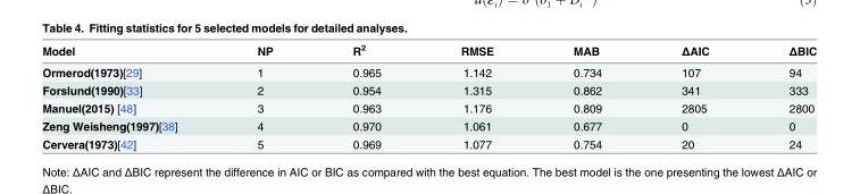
<table><thead><tr><td>Model</td><td>NP</td><td>R<sup>2</sup></td><td>RMSE</td><td>MAB</td><td>ΔAIC</td><td>ΔBIC</td></tr></thead><tbody><tr><td>Ormerod(1973)[29]</td><td>1</td><td>0.965</td><td>1.142</td><td>0.734</td><td>107</td><td>94</td></tr><tr><td>Forslund(1990)[33]</td><td>2</td><td>0.954</td><td>1.315</td><td>0.862</td><td>341</td><td>333</td></tr><tr><td>Manuel(2015) [48]</td><td>3</td><td>0.963</td><td>1.176</td><td>0.809</td><td>2805</td><td>2800</td></tr><tr><td>Zeng Weisheng(1997)[38]</td><td>4</td><td>0.970</td><td>1.061</td><td>0.677</td><td>0</td><td>0</td></tr><tr><td>Cervera(1973)[42]</td><td>5</td><td>0.969</td><td>1.077</td><td>0.754</td><td>20</td><td>24</td></tr></tbody></table>